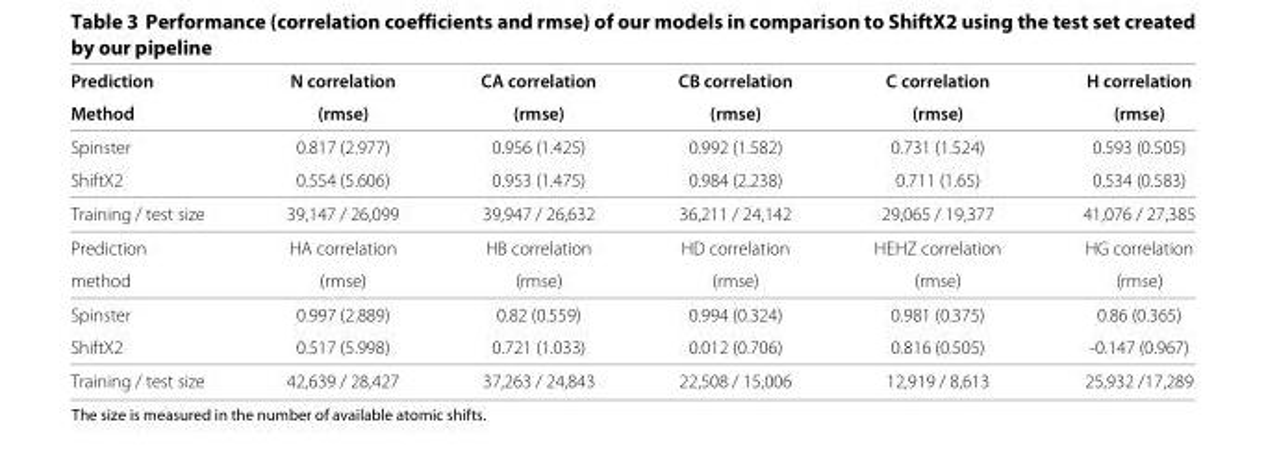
<table><thead><tr><td rowspan="2">Prediction Method</td><td rowspan="2">N correlation (rmse)</td><td rowspan="2">CA correlation (rmse)</td><td rowspan="2">CB correlation (rmse)</td><td rowspan="2">C correlation (rmse)</td><td rowspan="2">H correlation (rmse)</td></tr><tr></tr></thead><tbody><tr><td>Spinster</td><td>0.817 (2.977)</td><td>0.956 (1.425)</td><td>0.992 (1.582)</td><td>0.731 (1.524)</td><td>0.593 (0.505)</td></tr><tr><td>ShiftX2</td><td>0.554 (5.606)</td><td>0.953 (1.475)</td><td>0.984 (2.238)</td><td>0.711 (1.65)</td><td>0.534 (0.583)</td></tr><tr><td>Training / test size</td><td>39,147 / 26,099</td><td>39,947 / 26,632</td><td>36,211 / 24,142</td><td>29,065 / 19,377</td><td>41,076 / 27,385</td></tr><tr><td>Prediction</td><td>HA correlation</td><td>HB correlation</td><td>HD correlation</td><td>HEHZ correlation</td><td>HG correlation</td></tr><tr><td>method</td><td>(rmse)</td><td>(rmse)</td><td>(rmse)</td><td>(rmse)</td><td>(rmse)</td></tr><tr><td>Spinster</td><td>0.997 (2.889)</td><td>0.82 (0.559)</td><td>0.994 (0.324)</td><td>0.981 (0.375)</td><td>0.86 (0.365)</td></tr><tr><td>ShiftX2</td><td>0.517 (5.998)</td><td>0.721 (1.033)</td><td>0.012 (0.706)</td><td>0.816 (0.505)</td><td>-0.147 (0.967)</td></tr><tr><td>Training / test size</td><td>42,639 / 28,427</td><td>37,263 / 24,843</td><td>22,508 / 15,006</td><td>12,919 / 8,613</td><td>25,932 /17,289</td></tr></tbody></table>